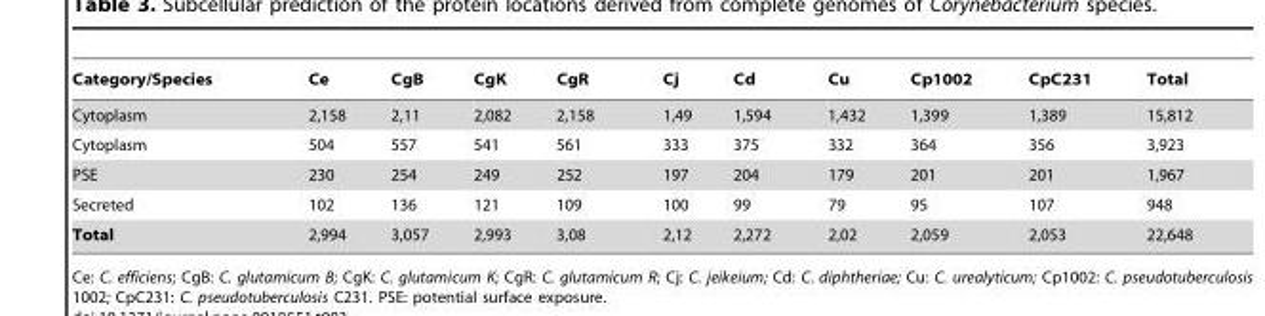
<table><thead><tr><td>Category/Species</td><td>Ce</td><td>CgB</td><td>CgK</td><td>CgR</td><td>Cj</td><td>Cd</td><td>Cu</td><td>Cp1002</td><td>CpC231</td><td>Total</td></tr></thead><tbody><tr><td>Cytoplasm</td><td>2,158</td><td>2,11</td><td>2,082</td><td>2,158</td><td>1,49</td><td>1,594</td><td>1,432</td><td>1,399</td><td>1,389</td><td>15,812</td></tr><tr><td>Cytoplasm</td><td>504</td><td>557</td><td>541</td><td>561</td><td>333</td><td>375</td><td>332</td><td>364</td><td>356</td><td>3,923</td></tr><tr><td>PSE</td><td>230</td><td>254</td><td>249</td><td>252</td><td>197</td><td>204</td><td>179</td><td>201</td><td>201</td><td>1,967</td></tr><tr><td>Secreted</td><td>102</td><td>136</td><td>121</td><td>109</td><td>100</td><td>99</td><td>79</td><td>95</td><td>107</td><td>948</td></tr><tr><td>Total</td><td>2,994</td><td>3,057</td><td>2,993</td><td>3,08</td><td>2,12</td><td>2,272</td><td>2,02</td><td>2,059</td><td>2,053</td><td>22,648</td></tr></tbody></table>